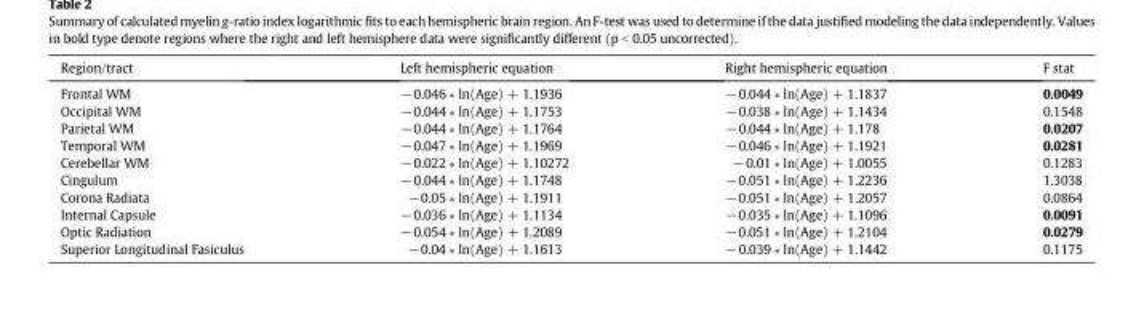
<table><thead><tr><td>Region/tract</td><td>Left hemispheric equation</td><td>Right hemispheric equation</td><td>F stat</td></tr></thead><tbody><tr><td>Frontal WM</td><td>−0.046 ∗ ln(Age) + 1.1936</td><td>−0.044 ∗ ln(Age) + 1.1837</td><td>0.0049</td></tr><tr><td>Occipital WM</td><td>−0.044 ∗ ln(Age) + 1.1753</td><td>−0.038 ∗ ln(Age) + 1.1434</td><td>0.1548</td></tr><tr><td>Parietal WM</td><td>−0.044 ∗ ln(Age) + 1.1764</td><td>−0.044 ∗ ln(Age) + 1.178</td><td>0.0207</td></tr><tr><td>Temporal WM</td><td>−0.047 ∗ ln(Age) + 1.1969</td><td>−0.046 ∗ ln(Age) + 1.1921</td><td>0.0281</td></tr><tr><td>Cerebellar WM</td><td>−0.022 ∗ ln(Age) + 1.10272</td><td>−0.01 ∗ ln(Age) + 1.0055</td><td>0.1283</td></tr><tr><td>Cingulum</td><td>−0.044 ∗ ln(Age) + 1.1748</td><td>−0.051 ∗ ln(Age) + 1.2236</td><td>1.3038</td></tr><tr><td>Corona Radiata</td><td>−0.05 ∗ ln(Age) + 1.1911</td><td>−0.051 ∗ ln(Age) + 1.2057</td><td>0.0864</td></tr><tr><td>Internal Capsule</td><td>−0.036 ∗ ln(Age) + 1.1134</td><td>−0.035 ∗ ln(Age) + 1.1096</td><td>0.0091</td></tr><tr><td>Optic Radiation</td><td>−0.054 ∗ ln(Age) + 1.2089</td><td>−0.051 ∗ ln(Age) + 1.2104</td><td>0.0279</td></tr><tr><td>Superior Longitudinal Fasiculus</td><td>−0.04 ∗ ln(Age) + 1.1613</td><td>−0.039 ∗ ln(Age) + 1.1442</td><td>0.1175</td></tr></tbody></table>